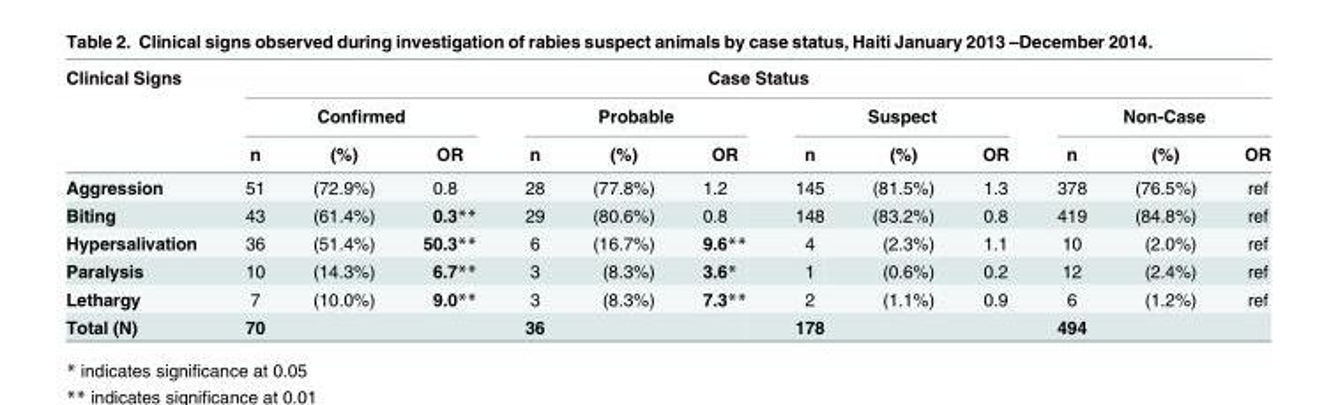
<table><thead><tr><td rowspan="3">Clinical Signs</td><td colspan="12">Case Status</td></tr><tr><td colspan="3">Confirmed</td><td colspan="3">Probable</td><td colspan="3">Suspect</td><td colspan="3">Non-Case</td></tr><tr><td>n</td><td>(%)</td><td>OR</td><td>n</td><td>(%)</td><td>OR</td><td>n</td><td>(%)</td><td>OR</td><td>n</td><td>(%)</td><td>OR</td></tr></thead><tbody><tr><td>Aggression</td><td>51</td><td>(72.9%)</td><td>0.8</td><td>28</td><td>(77.8%)</td><td>1.2</td><td>145</td><td>(81.5%)</td><td>1.3</td><td>378</td><td>(76.5%)</td><td>ref</td></tr><tr><td>Biting</td><td>43</td><td>(61.4%)</td><td>0.3**</td><td>29</td><td>(80.6%)</td><td>0.8</td><td>148</td><td>(83.2%)</td><td>0.8</td><td>419</td><td>(84.8%)</td><td>ref</td></tr><tr><td>Hypersalivation</td><td>36</td><td>(51.4%)</td><td>50.3**</td><td>6</td><td>(16.7%)</td><td>9.6**</td><td>4</td><td>(2.3%)</td><td>1.1</td><td>10</td><td>(2.0%)</td><td>ref</td></tr><tr><td>Paralysis</td><td>10</td><td>(14.3%)</td><td>6.7**</td><td>3</td><td>(8.3%)</td><td>3.6*</td><td>1</td><td>(0.6%)</td><td>0.2</td><td>12</td><td>(2.4%)</td><td>ref</td></tr><tr><td>Lethargy</td><td>7</td><td>(10.0%)</td><td>9.0**</td><td>3</td><td>(8.3%)</td><td>7.3**</td><td>2</td><td>(1.1%)</td><td>0.9</td><td>6</td><td>(1.2%)</td><td>ref</td></tr><tr><td>Total (N)</td><td>70</td><td></td><td></td><td>36</td><td></td><td></td><td>178</td><td></td><td></td><td>494</td><td></td><td></td></tr></tbody></table>